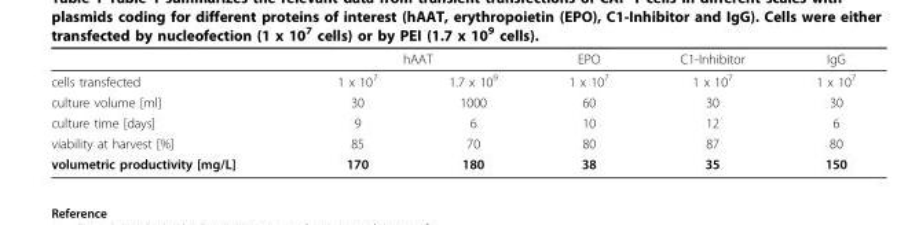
<table><thead><tr><td rowspan="2">cells transfected</td><td colspan="2">hAAT</td><td rowspan="2">EPO 1 x 10<sup>7</sup></td><td rowspan="2">C1-Inhibitor 1 x 10<sup>7</sup></td><td rowspan="2">IgG 1 x 10<sup>7</sup></td></tr><tr><td>1 x 10<sup>7</sup></td><td>1.7 x 10<sup>9</sup></td></tr></thead><tbody><tr><td>culture volume [ml]</td><td>30</td><td>1000</td><td>60</td><td>30</td><td>30</td></tr><tr><td>culture time [days]</td><td>9</td><td>6</td><td>10</td><td>12</td><td>6</td></tr><tr><td>viability at harvest [%]</td><td>85</td><td>70</td><td>80</td><td>87</td><td>80</td></tr><tr><td>volumetric productivity [mg/L]</td><td>170</td><td>180</td><td>38</td><td>35</td><td>150</td></tr></tbody></table>